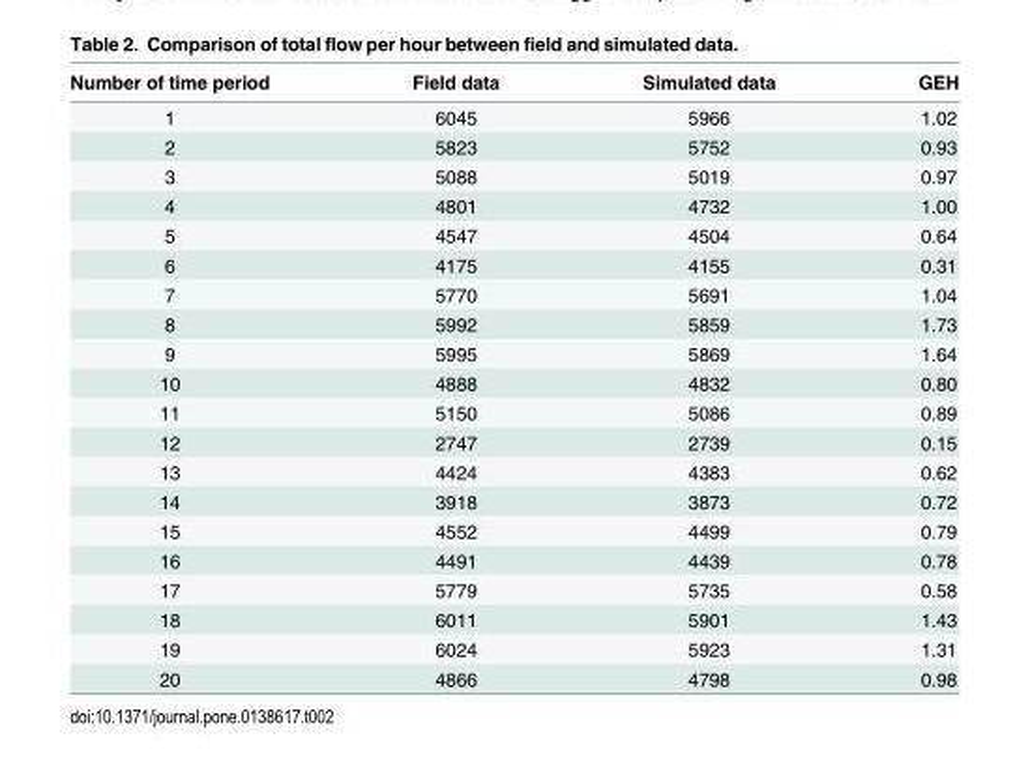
<table><thead><tr><td>Number of time period</td><td>Field data</td><td>Simulated data</td><td>GEH</td></tr></thead><tbody><tr><td>1</td><td>6045</td><td>5966</td><td>1.02</td></tr><tr><td>2</td><td>5823</td><td>5752</td><td>0.93</td></tr><tr><td>3</td><td>5088</td><td>5019</td><td>0.97</td></tr><tr><td>4</td><td>4801</td><td>4732</td><td>1.00</td></tr><tr><td>5</td><td>4547</td><td>4504</td><td>0.64</td></tr><tr><td>6</td><td>4175</td><td>4155</td><td>0.31</td></tr><tr><td>7</td><td>5770</td><td>5691</td><td>1.04</td></tr><tr><td>8</td><td>5992</td><td>5859</td><td>1.73</td></tr><tr><td>9</td><td>5995</td><td>5869</td><td>1.64</td></tr><tr><td>10</td><td>4888</td><td>4832</td><td>0.80</td></tr><tr><td>11</td><td>5150</td><td>5086</td><td>0.89</td></tr><tr><td>12</td><td>2747</td><td>2739</td><td>0.15</td></tr><tr><td>13</td><td>4424</td><td>4383</td><td>0.62</td></tr><tr><td>14</td><td>3918</td><td>3873</td><td>0.72</td></tr><tr><td>15</td><td>4552</td><td>4499</td><td>0.79</td></tr><tr><td>16</td><td>4491</td><td>4439</td><td>0.78</td></tr><tr><td>17</td><td>5779</td><td>5735</td><td>0.58</td></tr><tr><td>18</td><td>6011</td><td>5901</td><td>1.43</td></tr><tr><td>19</td><td>6024</td><td>5923</td><td>1.31</td></tr><tr><td>20</td><td>4866</td><td>4798</td><td>0.98</td></tr></tbody></table>